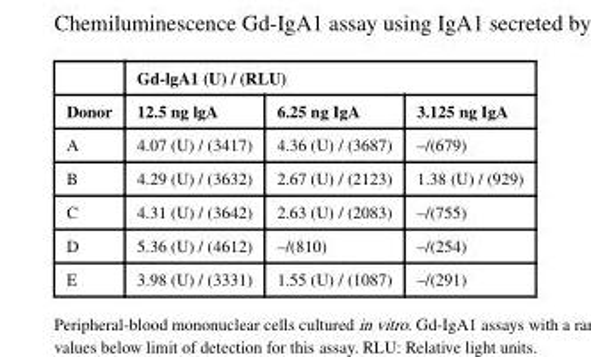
<table><thead><tr><td rowspan="2">Donor</td><td colspan="3">Gd-lgA1 (U) / (RLU)</td></tr><tr><td>12.5 ng lgA</td><td>6.25 ng IgA</td><td>3.125 ng IgA</td></tr></thead><tbody><tr><td>A</td><td>4.07 (U) / (3417)</td><td>4.36 (U) / (3687)</td><td>–/(679)</td></tr><tr><td>B</td><td>4.29 (U) / (3632)</td><td>2.67 (U) / (2123)</td><td>1.38 (U) / (929)</td></tr><tr><td>C</td><td>4.31 (U) / (3642)</td><td>2.63 (U) / (2083)</td><td>–/(755)</td></tr><tr><td>D</td><td>5.36 (U) / (4612)</td><td>–/(810)</td><td>–/(254)</td></tr><tr><td>E</td><td>3.98 (U) / (3331)</td><td>1.55 (U) / (1087)</td><td>–/(291)</td></tr></tbody></table>